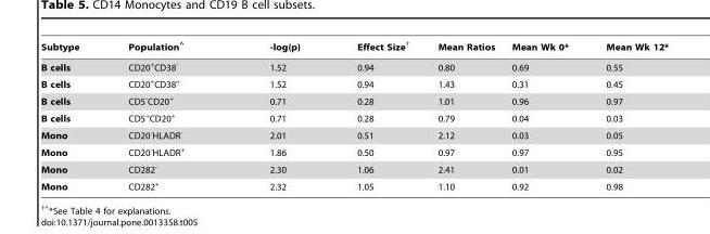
<table><thead><tr><td>Subtype</td><td>Population^</td><td>-log(p)</td><td>Effect Size<sup>†</sup></td><td>Mean Ratios</td><td>Mean Wk 0*</td><td>Mean Wk 12*</td></tr></thead><tbody><tr><td>B cells</td><td>CD20<sup>+</sup>CD38<sup>-</sup></td><td>1.52</td><td>0.94</td><td>0.80</td><td>0.69</td><td>0.55</td></tr><tr><td>B cells</td><td>CD20<sup>+</sup>CD38<sup>+</sup></td><td>1.52</td><td>0.94</td><td>1.43</td><td>0.31</td><td>0.45</td></tr><tr><td>B cells</td><td>CD5<sup>-</sup>CD20<sup>+</sup></td><td>0.71</td><td>0.28</td><td>1.01</td><td>0.96</td><td>0.97</td></tr><tr><td>B cells</td><td>CD5<sup>+</sup>CD20<sup>+</sup></td><td>0.71</td><td>0.28</td><td>0.79</td><td>0.04</td><td>0.03</td></tr><tr><td>Mono</td><td>CD20<sup>-</sup>HLADR<sup>-</sup></td><td>2.01</td><td>0.51</td><td>2.12</td><td>0.03</td><td>0.05</td></tr><tr><td>Mono</td><td>CD20<sup>-</sup>HLADR<sup>+</sup></td><td>1.86</td><td>0.50</td><td>0.97</td><td>0.97</td><td>0.95</td></tr><tr><td>Mono</td><td>CD282<sup>-</sup></td><td>2.30</td><td>1.06</td><td>2.41</td><td>0.01</td><td>0.02</td></tr><tr><td>Mono</td><td>CD282<sup>+</sup></td><td>2.32</td><td>1.05</td><td>1.10</td><td>0.92</td><td>0.98</td></tr></tbody></table>